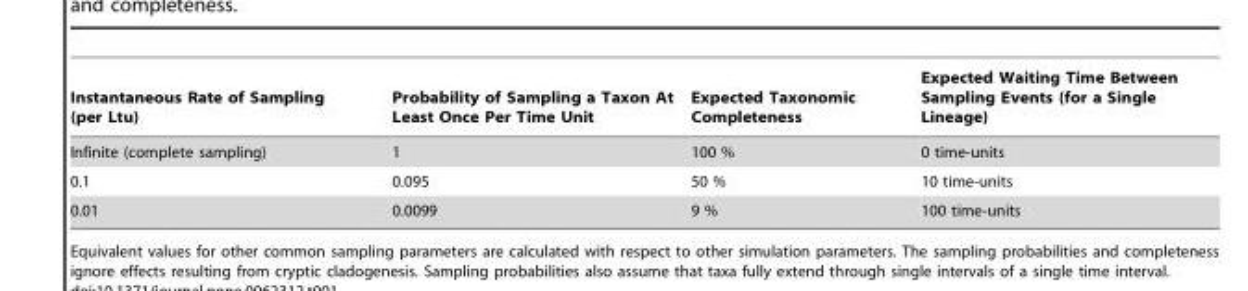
<table><thead><tr><td>Instantaneous Rate of Sampling (per Ltu)</td><td>Probability of Sampling a Taxon At Least Once Per Time Unit</td><td>Expected Taxonomic Completeness</td><td>Expected Waiting Time Between Sampling Events (for a Single Lineage)</td></tr></thead><tbody><tr><td>Infinite (complete sampling)</td><td>1</td><td>100 %</td><td>0 time-units</td></tr><tr><td>0.1</td><td>0.095</td><td>50 %</td><td>10 time-units</td></tr><tr><td>0.01</td><td>0.0099</td><td>9 %</td><td>100 time-units</td></tr></tbody></table>